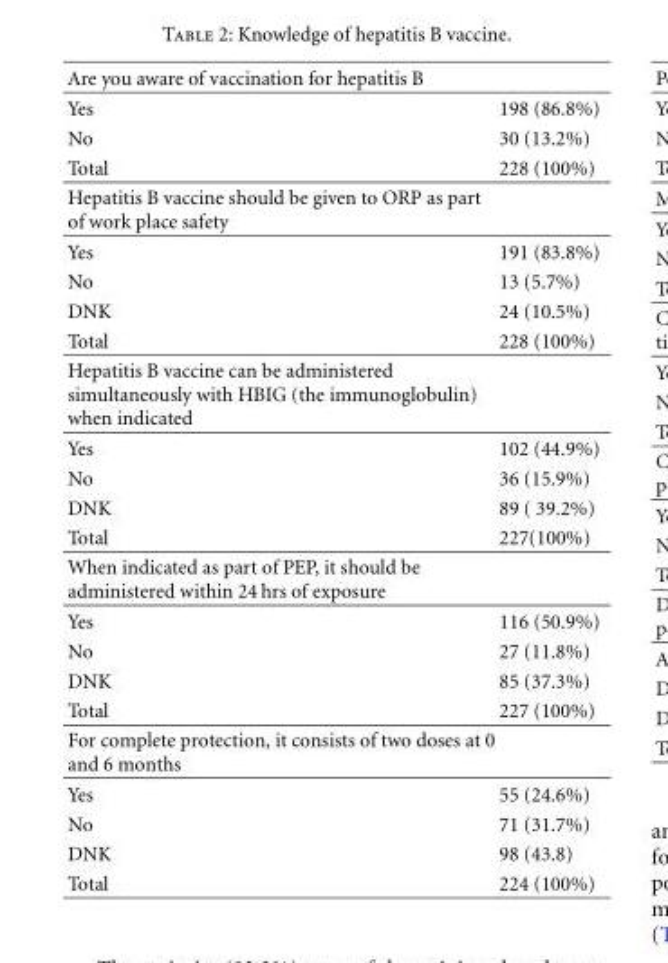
<table><thead><tr><td>Are you aware of vaccination for hepatitis B</td><td></td></tr></thead><tbody><tr><td>Yes</td><td>198 (86.8%)</td></tr><tr><td>No</td><td>30 (13.2%)</td></tr><tr><td>Total</td><td>228 (100%)</td></tr><tr><td colspan="2">Hepatitis B vaccine should be given to ORP as part of work place safety</td></tr><tr><td>Yes</td><td>191 (83.8%)</td></tr><tr><td>No</td><td>13 (5.7%)</td></tr><tr><td>DNK</td><td>24 (10.5%)</td></tr><tr><td>Total</td><td>228 (100%)</td></tr><tr><td colspan="2">Hepatitis B vaccine can be administered simultaneously with HBIG (the immunoglobulin) when indicated</td></tr><tr><td>Yes</td><td>102 (44.9%)</td></tr><tr><td>No</td><td>36 (15.9%)</td></tr><tr><td>DNK</td><td>89 ( 39.2%)</td></tr><tr><td>Total</td><td>227(100%)</td></tr><tr><td colspan="2">When indicated as part of PEP, it should be administered within 24 hrs of exposure</td></tr><tr><td>Yes</td><td>116 (50.9%)</td></tr><tr><td>No</td><td>27 (11.8%)</td></tr><tr><td>DNK</td><td>85 (37.3%)</td></tr><tr><td>Total</td><td>227 (100%)</td></tr><tr><td colspan="2">For complete protection, it consists of two doses at 0 and 6 months</td></tr><tr><td>Yes</td><td>55 (24.6%)</td></tr><tr><td>No</td><td>71 (31.7%)</td></tr><tr><td>DNK</td><td>98 (43.8)</td></tr><tr><td>Total</td><td>224 (100%)</td></tr></tbody></table>